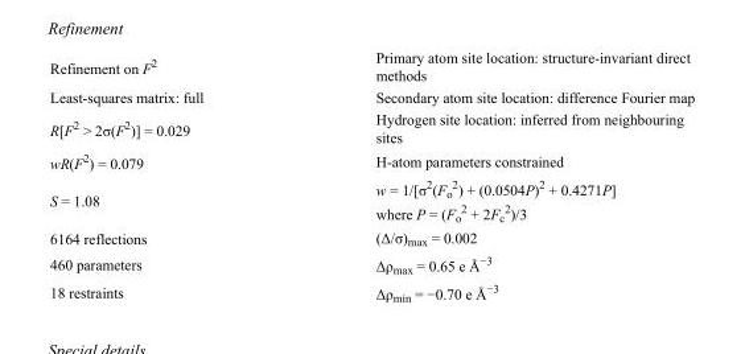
<table><tbody><tr><td>Refinement on F<sup>2</sup></td><td>Primary atom site location: structure-invariant direct methods</td></tr><tr><td>Least-squares matrix: full</td><td>Secondary atom site location: difference Fourier map</td></tr><tr><td>R[F<sup>2</sup> &gt; 2σ(F<sup>2</sup>)] = 0.029</td><td>Hydrogen site location: inferred from neighbouring sites</td></tr><tr><td>wR(F<sup>2</sup>) = 0.079</td><td>H-atom parameters constrained</td></tr><tr><td>S = 1.08</td><td>w = 1/[σ<sup>2</sup>(F<sub>o</sub> <sup>2</sup>) + (0.0504P)<sup>2</sup> + 0.4271P] where P = (F<sub>o</sub> <sup>2</sup> + 2F<sub>c</sub> <sup>2</sup>)/3</td></tr><tr><td>6164 reflections</td><td>(Δ/σ)<sub>max</sub> = 0.002</td></tr><tr><td>460 parameters</td><td>Δρ<sub>max</sub> = 0.65 e Å<sup>−3</sup></td></tr><tr><td>18 restraints</td><td>Δρ<sub>min</sub> = −0.70 e Å<sup>−3</sup></td></tr></tbody></table>